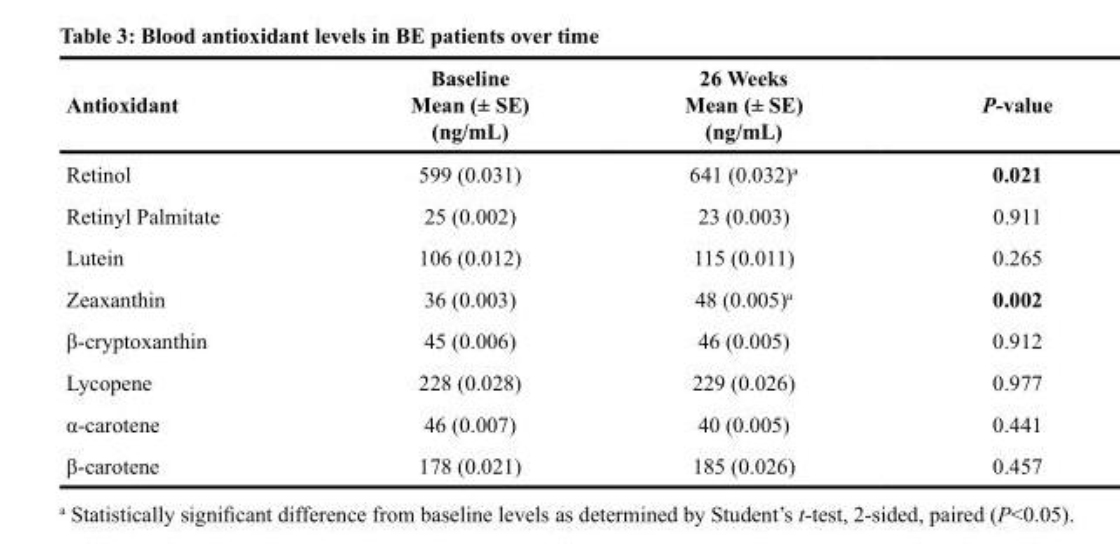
<table><thead><tr><td>Antioxidant</td><td>Baseline Mean (± SE) (ng/mL)</td><td>26 Weeks Mean (± SE) (ng/mL)</td><td>P-value</td></tr></thead><tbody><tr><td>Retinol</td><td>599 (0.031)</td><td>641 (0.032)<sup>a</sup></td><td>0.021</td></tr><tr><td>Retinyl Palmitate</td><td>25 (0.002)</td><td>23 (0.003)</td><td>0.911</td></tr><tr><td>Lutein</td><td>106 (0.012)</td><td>115 (0.011)</td><td>0.265</td></tr><tr><td>Zeaxanthin</td><td>36 (0.003)</td><td>48 (0.005)<sup>a</sup></td><td>0.002</td></tr><tr><td>β-cryptoxanthin</td><td>45 (0.006)</td><td>46 (0.005)</td><td>0.912</td></tr><tr><td>Lycopene</td><td>228 (0.028)</td><td>229 (0.026)</td><td>0.977</td></tr><tr><td>α-carotene</td><td>46 (0.007)</td><td>40 (0.005)</td><td>0.441</td></tr><tr><td>β-carotene</td><td>178 (0.021)</td><td>185 (0.026)</td><td>0.457</td></tr></tbody></table>